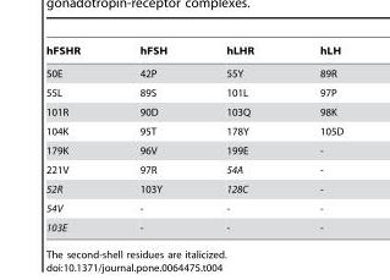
<table><thead><tr><td>hFSHR</td><td>hFSH</td><td>hLHR</td><td>hLH</td></tr></thead><tbody><tr><td>50E</td><td>42P</td><td>55Y</td><td>89R</td></tr><tr><td>55L</td><td>89S</td><td>101L</td><td>97P</td></tr><tr><td>101R</td><td>90D</td><td>103Q</td><td>98K</td></tr><tr><td>104K</td><td>95T</td><td>178Y</td><td>105D</td></tr><tr><td>179K</td><td>96V</td><td>199E</td><td>-</td></tr><tr><td>221V</td><td>97R</td><td>54A</td><td>-</td></tr><tr><td>52R</td><td>103Y</td><td>128C</td><td>-</td></tr><tr><td>54V</td><td>-</td><td>-</td><td>-</td></tr><tr><td>103E</td><td>-</td><td>-</td><td>-</td></tr></tbody></table>